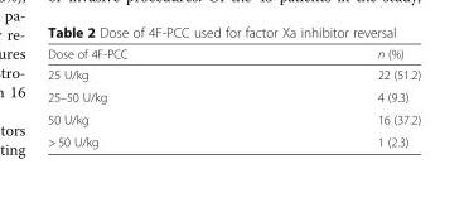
<table><thead><tr><td>Dose of 4F-PCC</td><td>n (%)</td></tr></thead><tbody><tr><td>25 U/kg</td><td>22 (51.2)</td></tr><tr><td>25–50 U/kg</td><td>4 (9.3)</td></tr><tr><td>50 U/kg</td><td>16 (37.2)</td></tr><tr><td>&gt; 50 U/kg</td><td>1 (2.3)</td></tr></tbody></table>